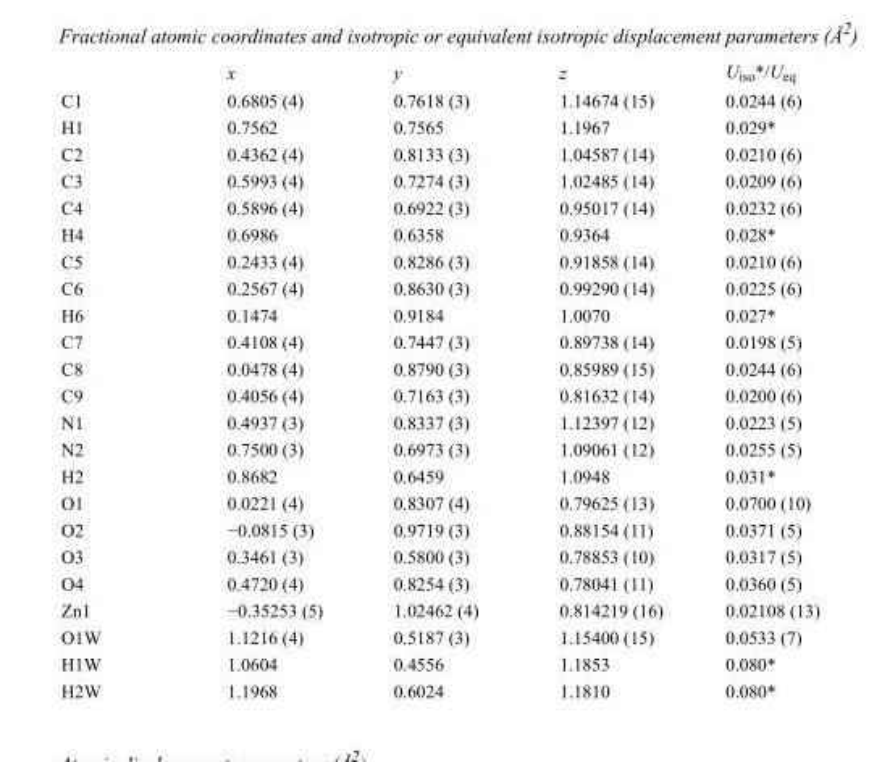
<table><thead><tr><td></td><td>x</td><td>y</td><td>z</td><td>U<sub>iso</sub>*/U<sub>eq</sub></td></tr></thead><tbody><tr><td>C1</td><td>0.6805 (4)</td><td>0.7618 (3)</td><td>1.14674 (15)</td><td>0.0244 (6)</td></tr><tr><td>H1</td><td>0.7562</td><td>0.7565</td><td>1.1967</td><td>0.029*</td></tr><tr><td>C2</td><td>0.4362 (4)</td><td>0.8133 (3)</td><td>1.04587 (14)</td><td>0.0210 (6)</td></tr><tr><td>C3</td><td>0.5993 (4)</td><td>0.7274 (3)</td><td>1.02485 (14)</td><td>0.0209 (6)</td></tr><tr><td>C4</td><td>0.5896 (4)</td><td>0.6922 (3)</td><td>0.95017 (14)</td><td>0.0232 (6)</td></tr><tr><td>H4</td><td>0.6986</td><td>0.6358</td><td>0.9364</td><td>0.028*</td></tr><tr><td>C5</td><td>0.2433 (4)</td><td>0.8286 (3)</td><td>0.91858 (14)</td><td>0.0210 (6)</td></tr><tr><td>C6</td><td>0.2567 (4)</td><td>0.8630 (3)</td><td>0.99290 (14)</td><td>0.0225 (6)</td></tr><tr><td>H6</td><td>0.1474</td><td>0.9184</td><td>1.0070</td><td>0.027*</td></tr><tr><td>C7</td><td>0.4108 (4)</td><td>0.7447 (3)</td><td>0.89738 (14)</td><td>0.0198 (5)</td></tr><tr><td>C8</td><td>0.0478 (4)</td><td>0.8790 (3)</td><td>0.85989 (15)</td><td>0.0244 (6)</td></tr><tr><td>C9</td><td>0.4056 (4)</td><td>0.7163 (3)</td><td>0.81632 (14)</td><td>0.0200 (6)</td></tr><tr><td>N1</td><td>0.4937 (3)</td><td>0.8337 (3)</td><td>1.12397 (12)</td><td>0.0223 (5)</td></tr><tr><td>N2</td><td>0.7500 (3)</td><td>0.6973 (3)</td><td>1.09061 (12)</td><td>0.0255 (5)</td></tr><tr><td>H2</td><td>0.8682</td><td>0.6459</td><td>1.0948</td><td>0.031*</td></tr><tr><td>O1</td><td>0.0221 (4)</td><td>0.8307 (4)</td><td>0.79625 (13)</td><td>0.0700 (10)</td></tr><tr><td>O2</td><td>−0.0815 (3)</td><td>0.9719 (3)</td><td>0.88154 (11)</td><td>0.0371 (5)</td></tr><tr><td>O3</td><td>0.3461 (3)</td><td>0.5800 (3)</td><td>0.78853 (10)</td><td>0.0317 (5)</td></tr><tr><td>O4</td><td>0.4720 (4)</td><td>0.8254 (3)</td><td>0.78041 (11)</td><td>0.0360 (5)</td></tr><tr><td>Zn1</td><td>−0.35253 (5)</td><td>1.02462 (4)</td><td>0.814219 (16)</td><td>0.02108 (13)</td></tr><tr><td>O1W</td><td>1.1216 (4)</td><td>0.5187 (3)</td><td>1.15400 (15)</td><td>0.0533 (7)</td></tr><tr><td>H1W</td><td>1.0604</td><td>0.4556</td><td>1.1853</td><td>0.080*</td></tr><tr><td>H2W</td><td>1.1968</td><td>0.6024</td><td>1.1810</td><td>0.080*</td></tr></tbody></table>